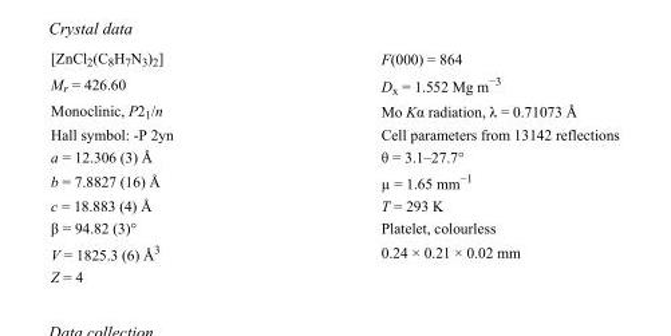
<table><tbody><tr><td>[ZnCl<sub>2</sub>(C<sub>8</sub>H<sub>7</sub>N<sub>3</sub>)<sub>2</sub>]</td><td>F(000) = 864</td></tr><tr><td>M<sub>r</sub> = 426.60</td><td>D<sub>x</sub> = 1.552 Mg m<sup>−3</sup></td></tr><tr><td>Monoclinic, P2<sub>1</sub>/n</td><td>Mo Kα radiation, λ = 0.71073 Å</td></tr><tr><td>Hall symbol: -P 2yn</td><td>Cell parameters from 13142 reflections</td></tr><tr><td>a = 12.306 (3) Å</td><td>θ = 3.1–27.7°</td></tr><tr><td>b = 7.8827 (16) Å</td><td>µ = 1.65 mm<sup>−1</sup></td></tr><tr><td>c = 18.883 (4) Å</td><td>T = 293 K</td></tr><tr><td>β = 94.82 (3)°</td><td>Platelet, colourless</td></tr><tr><td>V = 1825.3 (6) Å<sup>3</sup></td><td>0.24 × 0.21 × 0.02 mm</td></tr><tr><td>Z = 4</td><td></td></tr></tbody></table>